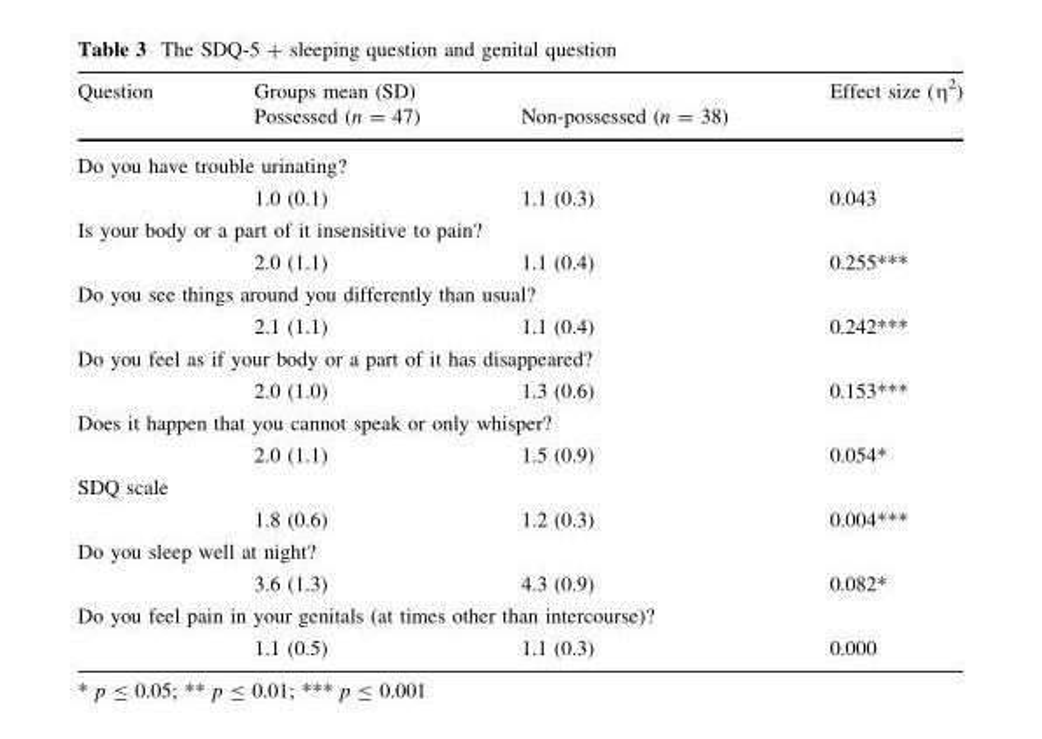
<table><thead><tr><td rowspan="2">Question</td><td rowspan="2">Groups mean (SD) Possessed (n = 47)</td><td rowspan="2">Non-possessed (n = 38)</td><td rowspan="2">Effect size (η<sup>2</sup>)</td></tr><tr></tr></thead><tbody><tr><td colspan="4">Do you have trouble urinating?</td></tr><tr><td></td><td>1.0 (0.1)</td><td>1.1 (0.3)</td><td>0.043</td></tr><tr><td colspan="4">Is your body or a part of it insensitive to pain?</td></tr><tr><td></td><td>2.0 (1.1)</td><td>1.1 (0.4)</td><td>0.255***</td></tr><tr><td colspan="4">Do you see things around you differently than usual?</td></tr><tr><td></td><td>2.1 (1.1)</td><td>1.1 (0.4)</td><td>0.242***</td></tr><tr><td colspan="4">Do you feel as if your body or a part of it has disappeared?</td></tr><tr><td></td><td>2.0 (1.0)</td><td>1.3 (0.6)</td><td>0.153***</td></tr><tr><td colspan="4">Does it happen that you cannot speak or only whisper?</td></tr><tr><td></td><td>2.0 (1.1)</td><td>1.5 (0.9)</td><td>0.054*</td></tr><tr><td colspan="4">SDQ scale</td></tr><tr><td></td><td>1.8 (0.6)</td><td>1.2 (0.3)</td><td>0.004***</td></tr><tr><td colspan="4">Do you sleep well at night?</td></tr><tr><td></td><td>3.6 (1.3)</td><td>4.3 (0.9)</td><td>0.082*</td></tr><tr><td colspan="4">Do you feel pain in your genitals (at times other than intercourse)?</td></tr><tr><td></td><td>1.1 (0.5)</td><td>1.1 (0.3)</td><td>0.000</td></tr></tbody></table>